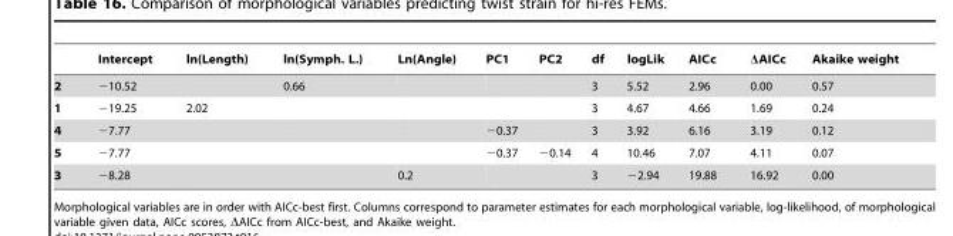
<table><thead><tr><td></td><td>Intercept</td><td>ln(Length)</td><td>ln(Symph. L.)</td><td>Ln(Angle)</td><td>PC1</td><td>PC2</td><td>df</td><td>logLik</td><td>AICc</td><td>ΔAICc</td><td>Akaike weight</td></tr></thead><tbody><tr><td>2</td><td>−10.52</td><td></td><td>0.66</td><td></td><td></td><td></td><td>3</td><td>5.52</td><td>2.96</td><td>0.00</td><td>0.57</td></tr><tr><td>1</td><td>−19.25</td><td>2.02</td><td></td><td></td><td></td><td></td><td>3</td><td>4.67</td><td>4.66</td><td>1.69</td><td>0.24</td></tr><tr><td>4</td><td>−7.77</td><td></td><td></td><td></td><td>−0.37</td><td></td><td>3</td><td>3.92</td><td>6.16</td><td>3.19</td><td>0.12</td></tr><tr><td>5</td><td>−7.77</td><td></td><td></td><td></td><td>−0.37</td><td>−0.14</td><td>4</td><td>10.46</td><td>7.07</td><td>4.11</td><td>0.07</td></tr><tr><td>3</td><td>−8.28</td><td></td><td></td><td>0.2</td><td></td><td></td><td>3</td><td>−2.94</td><td>19.88</td><td>16.92</td><td>0.00</td></tr></tbody></table>